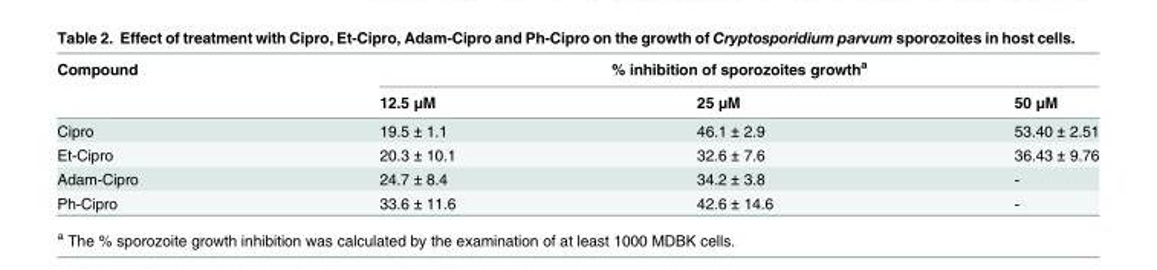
<table><thead><tr><td rowspan="2">Compound</td><td colspan="3">% inhibition of sporozoites growth<sup>a</sup></td></tr><tr><td>12.5 μM</td><td>25 μM</td><td>50 μM</td></tr></thead><tbody><tr><td>Cipro</td><td>19.5 ± 1.1</td><td>46.1 ± 2.9</td><td>53.40 ± 2.51</td></tr><tr><td>Et-Cipro</td><td>20.3 ± 10.1</td><td>32.6 ± 7.6</td><td>36.43 ± 9.76</td></tr><tr><td>Adam-Cipro</td><td>24.7 ± 8.4</td><td>34.2 ± 3.8</td><td>-</td></tr><tr><td>Ph-Cipro</td><td>33.6 ± 11.6</td><td>42.6 ± 14.6</td><td>-</td></tr></tbody></table>